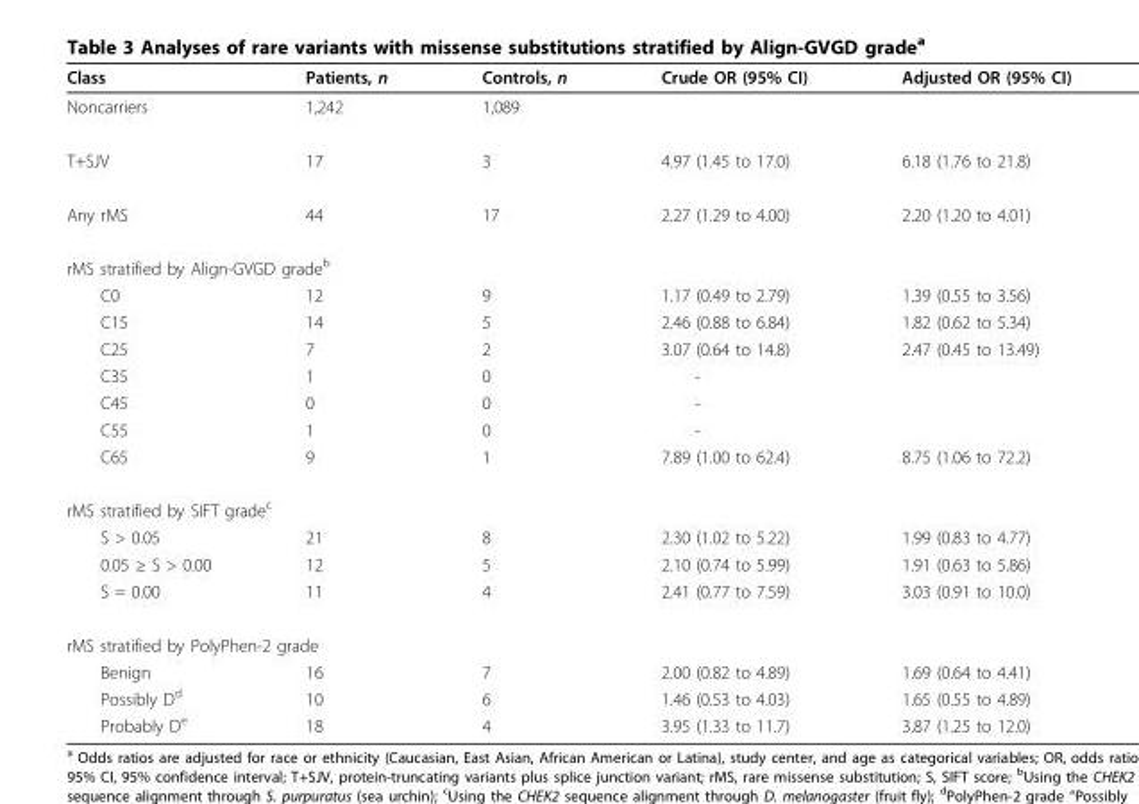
<table><thead><tr><td>Class</td><td>Patients, n</td><td>Controls, n</td><td>Crude OR (95% CI)</td><td>Adjusted OR (95% CI)</td></tr></thead><tbody><tr><td>Noncarriers</td><td>1,242</td><td>1,089</td><td></td><td></td></tr><tr><td>T+SJV</td><td>17</td><td>3</td><td>4.97 (1.45 to 17.0)</td><td>6.18 (1.76 to 21.8)</td></tr><tr><td>Any rMS</td><td>44</td><td>17</td><td>2.27 (1.29 to 4.00)</td><td>2.20 (1.20 to 4.01)</td></tr><tr><td colspan="5">rMS stratified by Align-GVGD grade<sup>b</sup></td></tr><tr><td>C0</td><td>12</td><td>9</td><td>1.17 (0.49 to 2.79)</td><td>1.39 (0.55 to 3.56)</td></tr><tr><td>C15</td><td>14</td><td>5</td><td>2.46 (0.88 to 6.84)</td><td>1.82 (0.62 to 5.34)</td></tr><tr><td>C25</td><td>7</td><td>2</td><td>3.07 (0.64 to 14.8)</td><td>2.47 (0.45 to 13.49)</td></tr><tr><td>C35</td><td>1</td><td>0</td><td>-</td><td></td></tr><tr><td>C45</td><td>0</td><td>0</td><td>-</td><td></td></tr><tr><td>C55</td><td>1</td><td>0</td><td>-</td><td></td></tr><tr><td>C65</td><td>9</td><td>1</td><td>7.89 (1.00 to 62.4)</td><td>8.75 (1.06 to 72.2)</td></tr><tr><td colspan="5">rMS stratified by SIFT grade<sup>c</sup></td></tr><tr><td>S &gt; 0.05</td><td>21</td><td>8</td><td>2.30 (1.02 to 5.22)</td><td>1.99 (0.83 to 4.77)</td></tr><tr><td>0.05 ≥ S &gt; 0.00</td><td>12</td><td>5</td><td>2.10 (0.74 to 5.99)</td><td>1.91 (0.63 to 5.86)</td></tr><tr><td>S = 0.00</td><td>11</td><td>4</td><td>2.41 (0.77 to 7.59)</td><td>3.03 (0.91 to 10.0)</td></tr><tr><td colspan="5">rMS stratified by PolyPhen-2 grade</td></tr><tr><td>Benign</td><td>16</td><td>7</td><td>2.00 (0.82 to 4.89)</td><td>1.69 (0.64 to 4.41)</td></tr><tr><td>Possibly D<sup>d</sup></td><td>10</td><td>6</td><td>1.46 (0.53 to 4.03)</td><td>1.65 (0.55 to 4.89)</td></tr><tr><td>Probably D<sup>e</sup></td><td>18</td><td>4</td><td>3.95 (1.33 to 11.7)</td><td>3.87 (1.25 to 12.0)</td></tr></tbody></table>